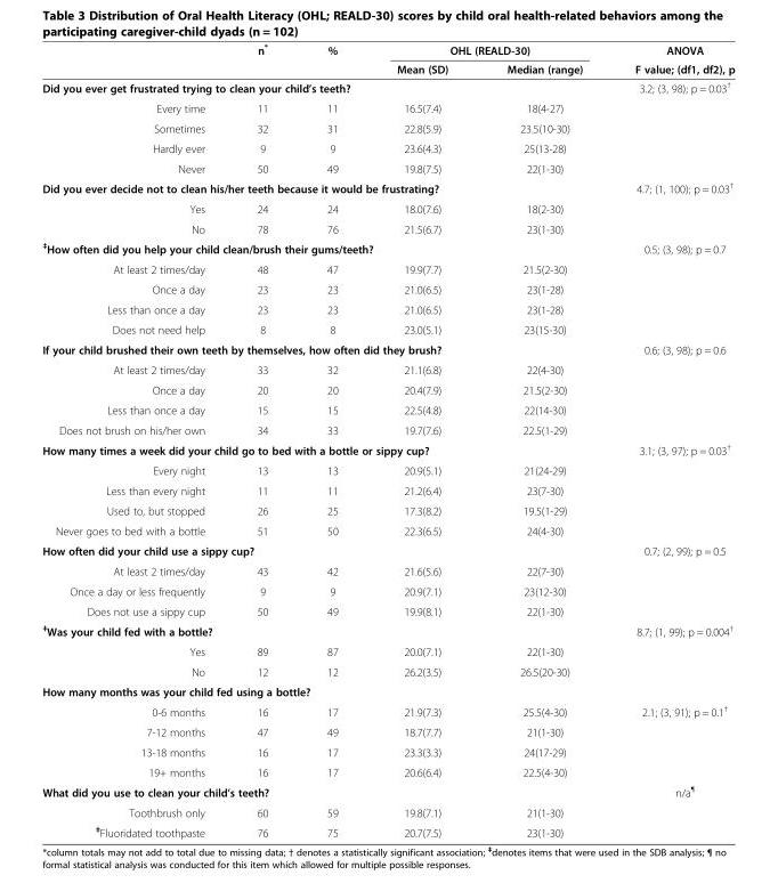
<table><thead><tr><td rowspan="2"></td><td rowspan="2">n*</td><td rowspan="2">%</td><td colspan="2">OHL (REALD-30)</td><td rowspan="2">ANOVA F value; (df1, df2), p</td></tr><tr><td>Mean (SD)</td><td>Median (range)</td></tr></thead><tbody><tr><td colspan="5">Did you ever get frustrated trying to clean your child’s teeth?</td><td>3.2; (3, 98); p = 0.03<sup>†</sup></td></tr><tr><td>Every time</td><td>11</td><td>11</td><td>16.5(7.4)</td><td>18(4-27)</td><td></td></tr><tr><td>Sometimes</td><td>32</td><td>31</td><td>22.8(5.9)</td><td>23.5(10-30)</td><td></td></tr><tr><td>Hardly ever</td><td>9</td><td>9</td><td>23.6(4.3)</td><td>25(13-28)</td><td></td></tr><tr><td>Never</td><td>50</td><td>49</td><td>19.8(7.5)</td><td>22(1-30)</td><td></td></tr><tr><td colspan="5">Did you ever decide not to clean his/her teeth because it would be frustrating?</td><td>4.7; (1, 100); p = 0.03<sup>†</sup></td></tr><tr><td>Yes</td><td>24</td><td>24</td><td>18.0(7.6)</td><td>18(2-30)</td><td></td></tr><tr><td>No</td><td>78</td><td>76</td><td>21.5(6.7)</td><td>23(1-30)</td><td></td></tr><tr><td colspan="5"><sup>‡</sup>How often did you help your child clean/brush their gums/teeth?</td><td>0.5; (3, 98); p = 0.7</td></tr><tr><td>At least 2 times/day</td><td>48</td><td>47</td><td>19.9(7.7)</td><td>21.5(2-30)</td><td></td></tr><tr><td>Once a day</td><td>23</td><td>23</td><td>21.0(6.5)</td><td>23(1-28)</td><td></td></tr><tr><td>Less than once a day</td><td>23</td><td>23</td><td>21.0(6.5)</td><td>23(1-28)</td><td></td></tr><tr><td>Does not need help</td><td>8</td><td>8</td><td>23.0(5.1)</td><td>23(15-30)</td><td></td></tr><tr><td colspan="5">If your child brushed their own teeth by themselves, how often did they brush?</td><td>0.6; (3, 98); p = 0.6</td></tr><tr><td>At least 2 times/day</td><td>33</td><td>32</td><td>21.1(6.8)</td><td>22(4-30)</td><td></td></tr><tr><td>Once a day</td><td>20</td><td>20</td><td>20.4(7.9)</td><td>21.5(2-30)</td><td></td></tr><tr><td>Less than once a day</td><td>15</td><td>15</td><td>22.5(4.8)</td><td>22(14-30)</td><td></td></tr><tr><td>Does not brush on his/her own</td><td>34</td><td>33</td><td>19.7(7.6)</td><td>22.5(1-29)</td><td></td></tr><tr><td colspan="5">How many times a week did your child go to bed with a bottle or sippy cup?</td><td>3.1; (3, 97); p = 0.03<sup>†</sup></td></tr><tr><td>Every night</td><td>13</td><td>13</td><td>20.9(5.1)</td><td>21(24-29)</td><td></td></tr><tr><td>Less than every night</td><td>11</td><td>11</td><td>21.2(6.4)</td><td>23(7-30)</td><td></td></tr><tr><td>Used to, but stopped</td><td>26</td><td>25</td><td>17.3(8.2)</td><td>19.5(1-29)</td><td></td></tr><tr><td>Never goes to bed with a bottle</td><td>51</td><td>50</td><td>22.3(6.5)</td><td>24(4-30)</td><td></td></tr><tr><td colspan="5">How often did your child use a sippy cup?</td><td>0.7; (2, 99); p = 0.5</td></tr><tr><td>At least 2 times/day</td><td>43</td><td>42</td><td>21.6(5.6)</td><td>22(7-30)</td><td></td></tr><tr><td>Once a day or less frequently</td><td>9</td><td>9</td><td>20.9(7.1)</td><td>23(12-30)</td><td></td></tr><tr><td>Does not use a sippy cup</td><td>50</td><td>49</td><td>19.9(8.1)</td><td>22(1-30)</td><td></td></tr><tr><td colspan="5"><sup>‡</sup>Was your child fed with a bottle?</td><td>8.7; (1, 99); p = 0.004<sup>†</sup></td></tr><tr><td>Yes</td><td>89</td><td>87</td><td>20.0(7.1)</td><td>22(1-30)</td><td></td></tr><tr><td>No</td><td>12</td><td>12</td><td>26.2(3.5)</td><td>26.5(20-30)</td><td></td></tr><tr><td colspan="6">How many months was your child fed using a bottle?</td></tr><tr><td>0-6 months</td><td>16</td><td>17</td><td>21.9(7.3)</td><td>25.5(4-30)</td><td>2.1; (3, 91); p = 0.1<sup>†</sup></td></tr><tr><td>7-12 months</td><td>47</td><td>49</td><td>18.7(7.7)</td><td>21(1-30)</td><td></td></tr><tr><td>13-18 months</td><td>16</td><td>17</td><td>23.3(3.3)</td><td>24(17-29)</td><td></td></tr><tr><td>19+ months</td><td>16</td><td>17</td><td>20.6(6.4)</td><td>22.5(4-30)</td><td></td></tr><tr><td colspan="5">What did you use to clean your child’s teeth?</td><td>n/a<sup>¶</sup></td></tr><tr><td>Toothbrush only</td><td>60</td><td>59</td><td>19.8(7.1)</td><td>21(1-30)</td><td></td></tr><tr><td><sup>‡</sup>Fluoridated toothpaste</td><td>76</td><td>75</td><td>20.7(7.5)</td><td>23(1-30)</td><td></td></tr></tbody></table>